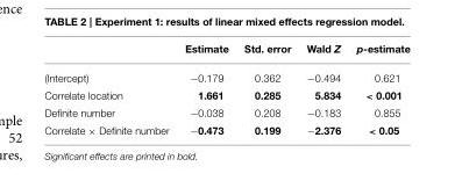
<table><thead><tr><td></td><td>Estimate</td><td>Std. error</td><td>Wald Z</td><td>p-estimate</td></tr></thead><tbody><tr><td>(Intercept)</td><td>−0.179</td><td>0.362</td><td>−0.494</td><td>0.621</td></tr><tr><td>Correlate location</td><td>1.661</td><td>0.285</td><td>5.834</td><td>&lt; 0.001</td></tr><tr><td>Definite number</td><td>−0.038</td><td>0.208</td><td>−0.183</td><td>0.855</td></tr><tr><td>Correlate × Definite number</td><td>−0.473</td><td>0.199</td><td>−2.376</td><td>&lt; 0.05</td></tr></tbody></table>